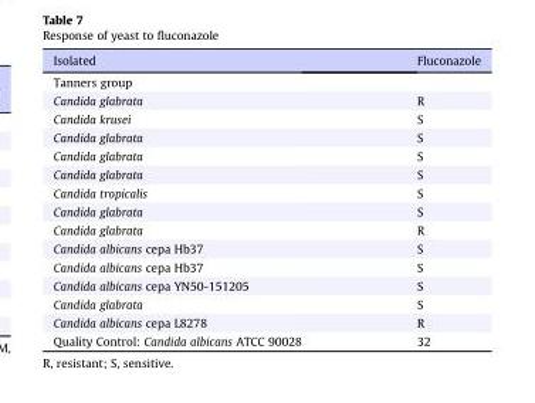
<table><thead><tr><td>Isolated</td><td>Fluconazole</td></tr></thead><tbody><tr><td colspan="2">Tanners group</td></tr><tr><td>Candida glabrata</td><td>R</td></tr><tr><td>Candida krusei</td><td>S</td></tr><tr><td>Candida glabrata</td><td>S</td></tr><tr><td>Candida glabrata</td><td>S</td></tr><tr><td>Candida glabrata</td><td>S</td></tr><tr><td>Candida tropicalis</td><td>S</td></tr><tr><td>Candida glabrata</td><td>S</td></tr><tr><td>Candida glabrata</td><td>R</td></tr><tr><td>Candida albicans cepa Hb37</td><td>S</td></tr><tr><td>Candida albicans cepa Hb37</td><td>S</td></tr><tr><td>Candida albicans cepa YN50-151205</td><td>S</td></tr><tr><td>Candida glabrata</td><td>S</td></tr><tr><td>Candida albicans cepa L8278</td><td>R</td></tr><tr><td>Quality Control: Candida albicans ATCC 90028</td><td>32</td></tr></tbody></table>